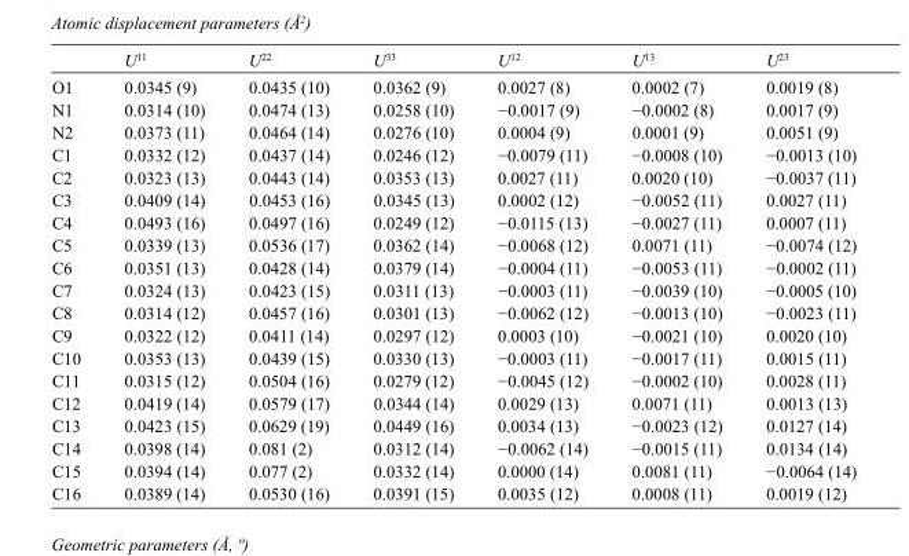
<table><thead><tr><td></td><td>U<sup>11</sup></td><td>U<sup>22</sup></td><td>U<sup>33</sup></td><td>U<sup>12</sup></td><td>U<sup>13</sup></td><td>U<sup>23</sup></td></tr></thead><tbody><tr><td>O1</td><td>0.0345 (9)</td><td>0.0435 (10)</td><td>0.0362 (9)</td><td>0.0027 (8)</td><td>0.0002 (7)</td><td>0.0019 (8)</td></tr><tr><td>N1</td><td>0.0314 (10)</td><td>0.0474 (13)</td><td>0.0258 (10)</td><td>−0.0017 (9)</td><td>−0.0002 (8)</td><td>0.0017 (9)</td></tr><tr><td>N2</td><td>0.0373 (11)</td><td>0.0464 (14)</td><td>0.0276 (10)</td><td>0.0004 (9)</td><td>0.0001 (9)</td><td>0.0051 (9)</td></tr><tr><td>C1</td><td>0.0332 (12)</td><td>0.0437 (14)</td><td>0.0246 (12)</td><td>−0.0079 (11)</td><td>−0.0008 (10)</td><td>−0.0013 (10)</td></tr><tr><td>C2</td><td>0.0323 (13)</td><td>0.0443 (14)</td><td>0.0353 (13)</td><td>0.0027 (11)</td><td>0.0020 (10)</td><td>−0.0037 (11)</td></tr><tr><td>C3</td><td>0.0409 (14)</td><td>0.0453 (16)</td><td>0.0345 (13)</td><td>0.0002 (12)</td><td>−0.0052 (11)</td><td>0.0027 (11)</td></tr><tr><td>C4</td><td>0.0493 (16)</td><td>0.0497 (16)</td><td>0.0249 (12)</td><td>−0.0115 (13)</td><td>−0.0027 (11)</td><td>0.0007 (11)</td></tr><tr><td>C5</td><td>0.0339 (13)</td><td>0.0536 (17)</td><td>0.0362 (14)</td><td>−0.0068 (12)</td><td>0.0071 (11)</td><td>−0.0074 (12)</td></tr><tr><td>C6</td><td>0.0351 (13)</td><td>0.0428 (14)</td><td>0.0379 (14)</td><td>−0.0004 (11)</td><td>−0.0053 (11)</td><td>−0.0002 (11)</td></tr><tr><td>C7</td><td>0.0324 (13)</td><td>0.0423 (15)</td><td>0.0311 (13)</td><td>−0.0003 (11)</td><td>−0.0039 (10)</td><td>−0.0005 (10)</td></tr><tr><td>C8</td><td>0.0314 (12)</td><td>0.0457 (16)</td><td>0.0301 (13)</td><td>−0.0062 (12)</td><td>−0.0013 (10)</td><td>−0.0023 (11)</td></tr><tr><td>C9</td><td>0.0322 (12)</td><td>0.0411 (14)</td><td>0.0297 (12)</td><td>0.0003 (10)</td><td>−0.0021 (10)</td><td>0.0020 (10)</td></tr><tr><td>C10</td><td>0.0353 (13)</td><td>0.0439 (15)</td><td>0.0330 (13)</td><td>−0.0003 (11)</td><td>−0.0017 (11)</td><td>0.0015 (11)</td></tr><tr><td>C11</td><td>0.0315 (12)</td><td>0.0504 (16)</td><td>0.0279 (12)</td><td>−0.0045 (12)</td><td>−0.0002 (10)</td><td>0.0028 (11)</td></tr><tr><td>C12</td><td>0.0419 (14)</td><td>0.0579 (17)</td><td>0.0344 (14)</td><td>0.0029 (13)</td><td>0.0071 (11)</td><td>0.0013 (13)</td></tr><tr><td>C13</td><td>0.0423 (15)</td><td>0.0629 (19)</td><td>0.0449 (16)</td><td>0.0034 (13)</td><td>−0.0023 (12)</td><td>0.0127 (14)</td></tr><tr><td>C14</td><td>0.0398 (14)</td><td>0.081 (2)</td><td>0.0312 (14)</td><td>−0.0062 (14)</td><td>−0.0015 (11)</td><td>0.0134 (14)</td></tr><tr><td>C15</td><td>0.0394 (14)</td><td>0.077 (2)</td><td>0.0332 (14)</td><td>0.0000 (14)</td><td>0.0081 (11)</td><td>−0.0064 (14)</td></tr><tr><td>C16</td><td>0.0389 (14)</td><td>0.0530 (16)</td><td>0.0391 (15)</td><td>0.0035 (12)</td><td>0.0008 (11)</td><td>0.0019 (12)</td></tr></tbody></table>